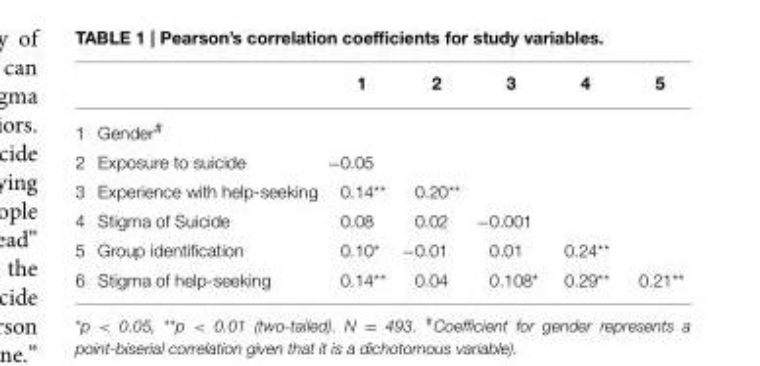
<table><thead><tr><td></td><td></td><td>1</td><td>2</td><td>3</td><td>4</td><td>5</td></tr></thead><tbody><tr><td>1</td><td>Gender<sup>#</sup></td><td></td><td></td><td></td><td></td><td></td></tr><tr><td>2</td><td>Exposure to suicide</td><td>−0.05</td><td></td><td></td><td></td><td></td></tr><tr><td>3</td><td>Experience with help-seeking</td><td>0.14**</td><td>0.20**</td><td></td><td></td><td></td></tr><tr><td>4</td><td>Stigma of Suicide</td><td>0.08</td><td>0.02</td><td>−0.001</td><td></td><td></td></tr><tr><td>5</td><td>Group identification</td><td>0.10*</td><td>−0.01</td><td>0.01</td><td>0.24**</td><td></td></tr><tr><td>6</td><td>Stigma of help-seeking</td><td>0.14**</td><td>0.04</td><td>0.108*</td><td>0.29**</td><td>0.21**</td></tr></tbody></table>